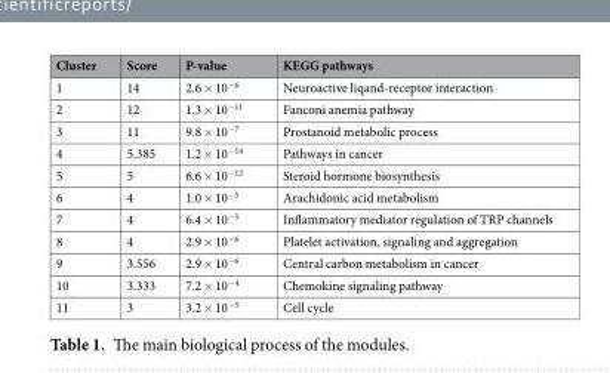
<table><thead><tr><td>Cluster</td><td>Score</td><td>P-value</td><td>KEGG pathways</td></tr></thead><tbody><tr><td>1</td><td>14</td><td>2.6 × 10<sup>−6</sup></td><td>Neuroactive liqand-receptor interaction</td></tr><tr><td>2</td><td>12</td><td>1.3 × 10<sup>−11</sup></td><td>Fanconi anemia pathway</td></tr><tr><td>3</td><td>11</td><td>9.8 × 10<sup>−7</sup></td><td>Prostanoid metabolic process</td></tr><tr><td>4</td><td>5.385</td><td>1.2 × 10<sup>−14</sup></td><td>Pathways in cancer</td></tr><tr><td>5</td><td>5</td><td>6.6 × 10<sup>−12</sup></td><td>Steroid hormone biosynthesis</td></tr><tr><td>6</td><td>4</td><td>1.0 × 10<sup>−5</sup></td><td>Arachidonic acid metabolism</td></tr><tr><td>7</td><td>4</td><td>6.4 × 10<sup>−5</sup></td><td>Inflammatory mediator regulation of TRP channels</td></tr><tr><td>8</td><td>4</td><td>2.9 × 10<sup>−6</sup></td><td>Platelet activation, signaling and aggregation</td></tr><tr><td>9</td><td>3.556</td><td>2.9 × 10<sup>−6</sup></td><td>Central carbon metabolism in cancer</td></tr><tr><td>10</td><td>3.333</td><td>7.2 × 10<sup>−4</sup></td><td>Chemokine signaling pathway</td></tr><tr><td>11</td><td>3</td><td>3.2 × 10<sup>−5</sup></td><td>Cell cycle</td></tr></tbody></table>